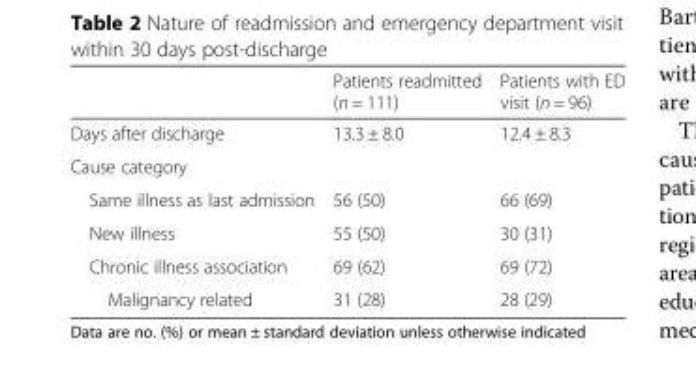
<table><thead><tr><td></td><td>Patients readmitted (n = 111)</td><td>Patients with ED visit (n = 96)</td></tr></thead><tbody><tr><td>Days after discharge</td><td>13.3 ± 8.0</td><td>12.4 ± 8.3</td></tr><tr><td colspan="3">Cause category</td></tr><tr><td>Same illness as last admission</td><td>56 (50)</td><td>66 (69)</td></tr><tr><td>New illness</td><td>55 (50)</td><td>30 (31)</td></tr><tr><td>Chronic illness association</td><td>69 (62)</td><td>69 (72)</td></tr><tr><td>Malignancy related</td><td>31 (28)</td><td>28 (29)</td></tr></tbody></table>